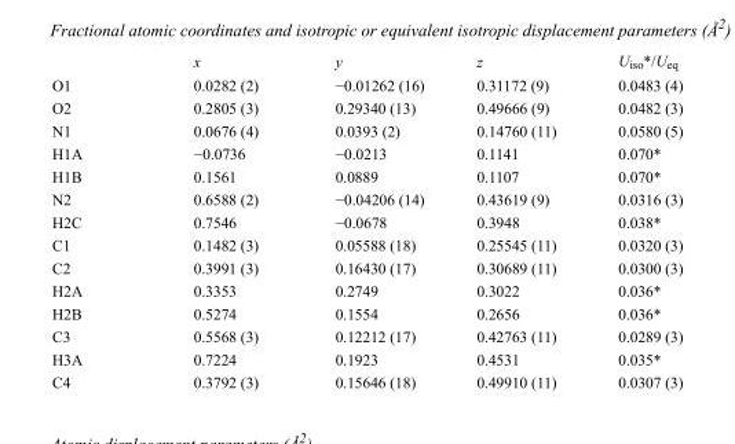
<table><thead><tr><td></td><td>x</td><td>y</td><td>z</td><td>U<sub>iso</sub>*/U<sub>eq</sub></td></tr></thead><tbody><tr><td>O1</td><td>0.0282 (2)</td><td>−0.01262 (16)</td><td>0.31172 (9)</td><td>0.0483 (4)</td></tr><tr><td>O2</td><td>0.2805 (3)</td><td>0.29340 (13)</td><td>0.49666 (9)</td><td>0.0482 (3)</td></tr><tr><td>N1</td><td>0.0676 (4)</td><td>0.0393 (2)</td><td>0.14760 (11)</td><td>0.0580 (5)</td></tr><tr><td>H1A</td><td>−0.0736</td><td>−0.0213</td><td>0.1141</td><td>0.070*</td></tr><tr><td>H1B</td><td>0.1561</td><td>0.0889</td><td>0.1107</td><td>0.070*</td></tr><tr><td>N2</td><td>0.6588 (2)</td><td>−0.04206 (14)</td><td>0.43619 (9)</td><td>0.0316 (3)</td></tr><tr><td>H2C</td><td>0.7546</td><td>−0.0678</td><td>0.3948</td><td>0.038*</td></tr><tr><td>C1</td><td>0.1482 (3)</td><td>0.05588 (18)</td><td>0.25545 (11)</td><td>0.0320 (3)</td></tr><tr><td>C2</td><td>0.3991 (3)</td><td>0.16430 (17)</td><td>0.30689 (11)</td><td>0.0300 (3)</td></tr><tr><td>H2A</td><td>0.3353</td><td>0.2749</td><td>0.3022</td><td>0.036*</td></tr><tr><td>H2B</td><td>0.5274</td><td>0.1554</td><td>0.2656</td><td>0.036*</td></tr><tr><td>C3</td><td>0.5568 (3)</td><td>0.12212 (17)</td><td>0.42763 (11)</td><td>0.0289 (3)</td></tr><tr><td>H3A</td><td>0.7224</td><td>0.1923</td><td>0.4531</td><td>0.035*</td></tr><tr><td>C4</td><td>0.3792 (3)</td><td>0.15646 (18)</td><td>0.49910 (11)</td><td>0.0307 (3)</td></tr></tbody></table>